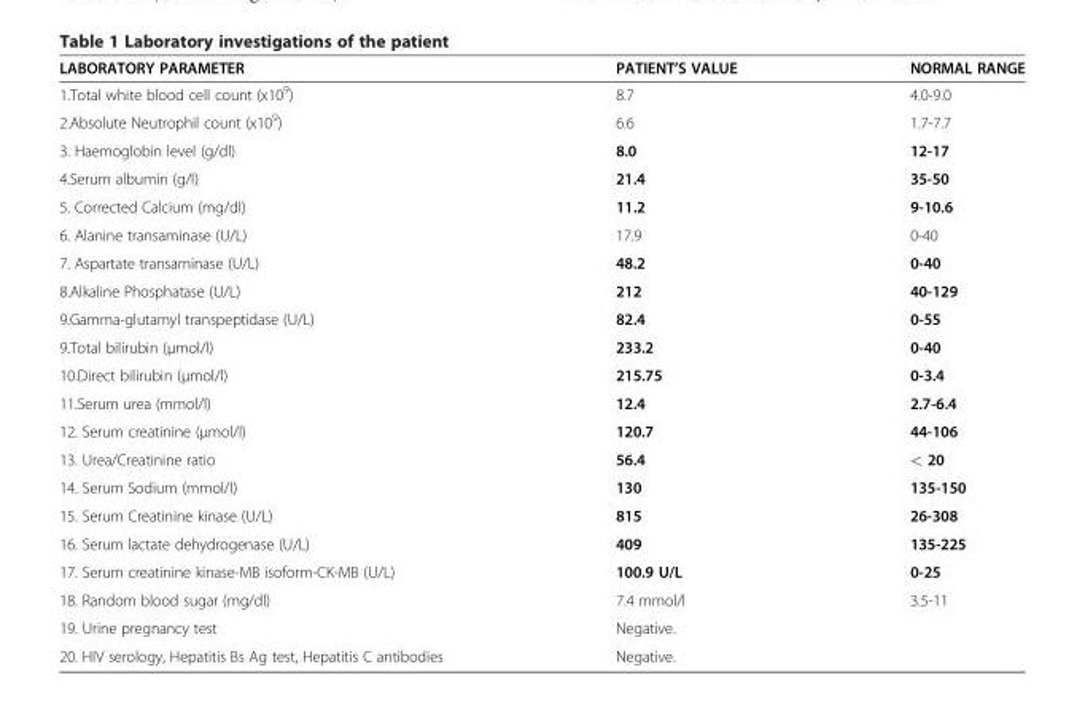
<table><thead><tr><td>LABORATORY PARAMETER</td><td>PATIENT’S VALUE</td><td>NORMAL RANGE</td></tr></thead><tbody><tr><td>1.Total white blood cell count (x10<sup>9</sup>)</td><td>8.7</td><td>4.0-9.0</td></tr><tr><td>2.Absolute Neutrophil count (x10<sup>9</sup>)</td><td>6.6</td><td>1.7-7.7</td></tr><tr><td>3. Haemoglobin level (g/dl)</td><td>8.0</td><td>12-17</td></tr><tr><td>4.Serum albumin (g/l)</td><td>21.4</td><td>35-50</td></tr><tr><td>5. Corrected Calcium (mg/dl)</td><td>11.2</td><td>9-10.6</td></tr><tr><td>6. Alanine transaminase (U/L)</td><td>17.9</td><td>0-40</td></tr><tr><td>7. Aspartate transaminase (U/L)</td><td>48.2</td><td>0-40</td></tr><tr><td>8.Alkaline Phosphatase (U/L)</td><td>212</td><td>40-129</td></tr><tr><td>9.Gamma-glutamyl transpeptidase (U/L)</td><td>82.4</td><td>0-55</td></tr><tr><td>9.Total bilirubin (μmol/l)</td><td>233.2</td><td>0-40</td></tr><tr><td>10.Direct bilirubin (μmol/l)</td><td>215.75</td><td>0-3.4</td></tr><tr><td>11.Serum urea (mmol/l)</td><td>12.4</td><td>2.7-6.4</td></tr><tr><td>12. Serum creatinine (μmol/l)</td><td>120.7</td><td>44-106</td></tr><tr><td>13. Urea/Creatinine ratio</td><td>56.4</td><td>&lt; 20</td></tr><tr><td>14. Serum Sodium (mmol/l)</td><td>130</td><td>135-150</td></tr><tr><td>15. Serum Creatinine kinase (U/L)</td><td>815</td><td>26-308</td></tr><tr><td>16. Serum lactate dehydrogenase (U/L)</td><td>409</td><td>135-225</td></tr><tr><td>17. Serum creatinine kinase-MB isoform-CK-MB (U/L)</td><td>100.9 U/L</td><td>0-25</td></tr><tr><td>18. Random blood sugar (mg/dl)</td><td>7.4 mmol/l</td><td>3.5-11</td></tr><tr><td>19. Urine pregnancy test</td><td>Negative.</td><td></td></tr><tr><td>20. HIV serology, Hepatitis Bs Ag test, Hepatitis C antibodies</td><td>Negative.</td><td></td></tr></tbody></table>